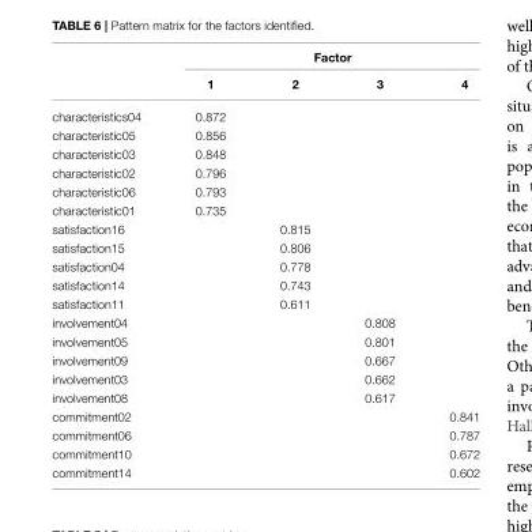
<table><thead><tr><td rowspan="2"></td><td colspan="4">Factor</td></tr><tr><td>1</td><td>2</td><td>3</td><td>4</td></tr></thead><tbody><tr><td>characteristics04</td><td>0.872</td><td></td><td></td><td></td></tr><tr><td>characteristic05</td><td>0.856</td><td></td><td></td><td></td></tr><tr><td>characteristic03</td><td>0.848</td><td></td><td></td><td></td></tr><tr><td>characteristic02</td><td>0.796</td><td></td><td></td><td></td></tr><tr><td>characteristic06</td><td>0.793</td><td></td><td></td><td></td></tr><tr><td>characteristic01</td><td>0.735</td><td></td><td></td><td></td></tr><tr><td>satisfaction16</td><td></td><td>0.815</td><td></td><td></td></tr><tr><td>satisfaction15</td><td></td><td>0.806</td><td></td><td></td></tr><tr><td>satisfaction04</td><td></td><td>0.778</td><td></td><td></td></tr><tr><td>satisfaction14</td><td></td><td>0.743</td><td></td><td></td></tr><tr><td>satisfaction11</td><td></td><td>0.611</td><td></td><td></td></tr><tr><td>involvement04</td><td></td><td></td><td>0.808</td><td></td></tr><tr><td>involvement05</td><td></td><td></td><td>0.801</td><td></td></tr><tr><td>involvement09</td><td></td><td></td><td>0.667</td><td></td></tr><tr><td>involvement03</td><td></td><td></td><td>0.662</td><td></td></tr><tr><td>involvement08</td><td></td><td></td><td>0.617</td><td></td></tr><tr><td>commitment02</td><td></td><td></td><td></td><td>0.841</td></tr><tr><td>commitment06</td><td></td><td></td><td></td><td>0.787</td></tr><tr><td>commitment10</td><td></td><td></td><td></td><td>0.672</td></tr><tr><td>commitment14</td><td></td><td></td><td></td><td>0.602</td></tr></tbody></table>